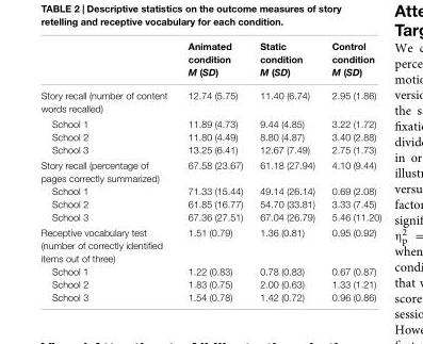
<table><thead><tr><td></td><td>Animated condition M (SD)</td><td>Static condition M (SD)</td><td>Control condition M (SD)</td></tr></thead><tbody><tr><td>Story recall (number of content words recalled)</td><td>12.74 (5.75)</td><td>11.40 (6.74)</td><td>2.95 (1.86)</td></tr><tr><td>School 1 School 2 School 3</td><td>11.89 (4.73) 11.80 (4.49) 13.25 (6.41)</td><td>9.44 (4.85) 8.80 (4.87) 12.67 (7.49)</td><td>3.22 (1.72) 3.40 (2.88) 2.75 (1.73)</td></tr><tr><td>Story recall (percentage of pages correctly summarized) School 1 School 2 School 3</td><td>67.58 (23.67) 71.33 (15.44) 61.85 (16.77) 67.36 (27.51)</td><td>61.18 (27.94) 49.14 (26.14) 54.70 (33.81) 67.04 (26.79)</td><td>4.10 (9.44) 0.69 (2.08) 3.33 (7.45) 5.46 (11.20)</td></tr><tr><td>Receptive vocabulary test (number of correctly identified items out of three) School 1 School 2 School 3</td><td>1.51 (0.79) 1.22 (0.83) 1.83 (0.75) 1.54 (0.78)</td><td>1.36 (0.81) 0.78 (0.83) 2.00 (0.63) 1.42 (0.72)</td><td>0.95 (0.92) 0.67 (0.87) 1.33 (1.21) 0.96 (0.86)</td></tr></tbody></table>